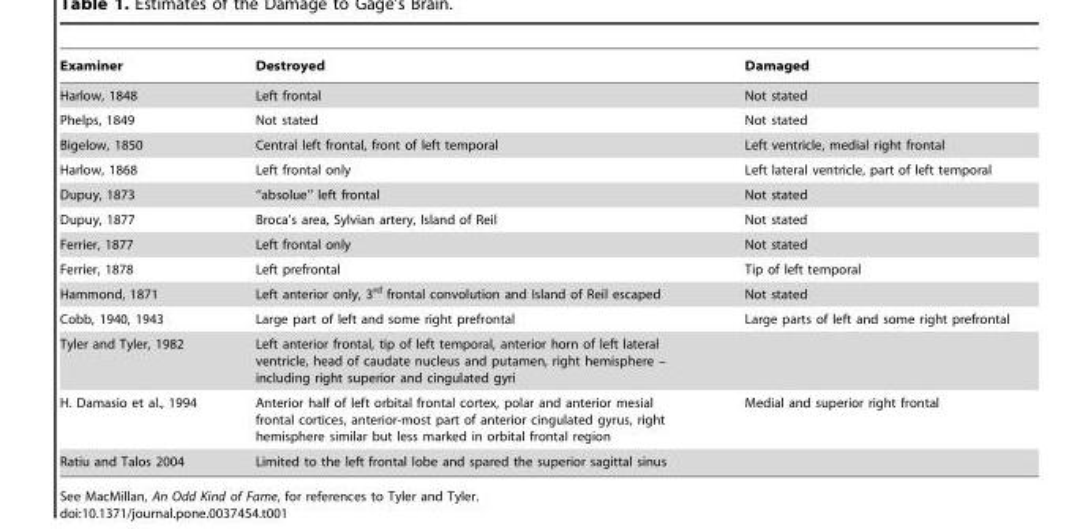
<table><thead><tr><td>Examiner</td><td>Destroyed</td><td>Damaged</td></tr></thead><tbody><tr><td>Harlow, 1848</td><td>Left frontal</td><td>Not stated</td></tr><tr><td>Phelps, 1849</td><td>Not stated</td><td>Not stated</td></tr><tr><td>Bigelow, 1850</td><td>Central left frontal, front of left temporal</td><td>Left ventricle, medial right frontal</td></tr><tr><td>Harlow, 1868</td><td>Left frontal only</td><td>Left lateral ventricle, part of left temporal</td></tr><tr><td>Dupuy, 1873</td><td>‘‘absolue’’ left frontal</td><td>Not stated</td></tr><tr><td>Dupuy, 1877</td><td>Broca’s area, Sylvian artery, Island of Reil</td><td>Not stated</td></tr><tr><td>Ferrier, 1877</td><td>Left frontal only</td><td>Not stated</td></tr><tr><td>Ferrier, 1878</td><td>Left prefrontal</td><td>Tip of left temporal</td></tr><tr><td>Hammond, 1871</td><td>Left anterior only, 3<sup>rd</sup> frontal convolution and Island of Reil escaped</td><td>Not stated</td></tr><tr><td>Cobb, 1940, 1943</td><td>Large part of left and some right prefrontal</td><td>Large parts of left and some right prefrontal</td></tr><tr><td>Tyler and Tyler, 1982</td><td>Left anterior frontal, tip of left temporal, anterior horn of left lateral ventricle, head of caudate nucleus and putamen, right hemisphere – including right superior and cingulated gyri</td><td></td></tr><tr><td>H. Damasio et al., 1994</td><td>Anterior half of left orbital frontal cortex, polar and anterior mesial frontal cortices, anterior-most part of anterior cingulated gyrus, right hemisphere similar but less marked in orbital frontal region</td><td>Medial and superior right frontal</td></tr><tr><td>Ratiu and Talos 2004</td><td>Limited to the left frontal lobe and spared the superior sagittal sinus</td><td></td></tr></tbody></table>